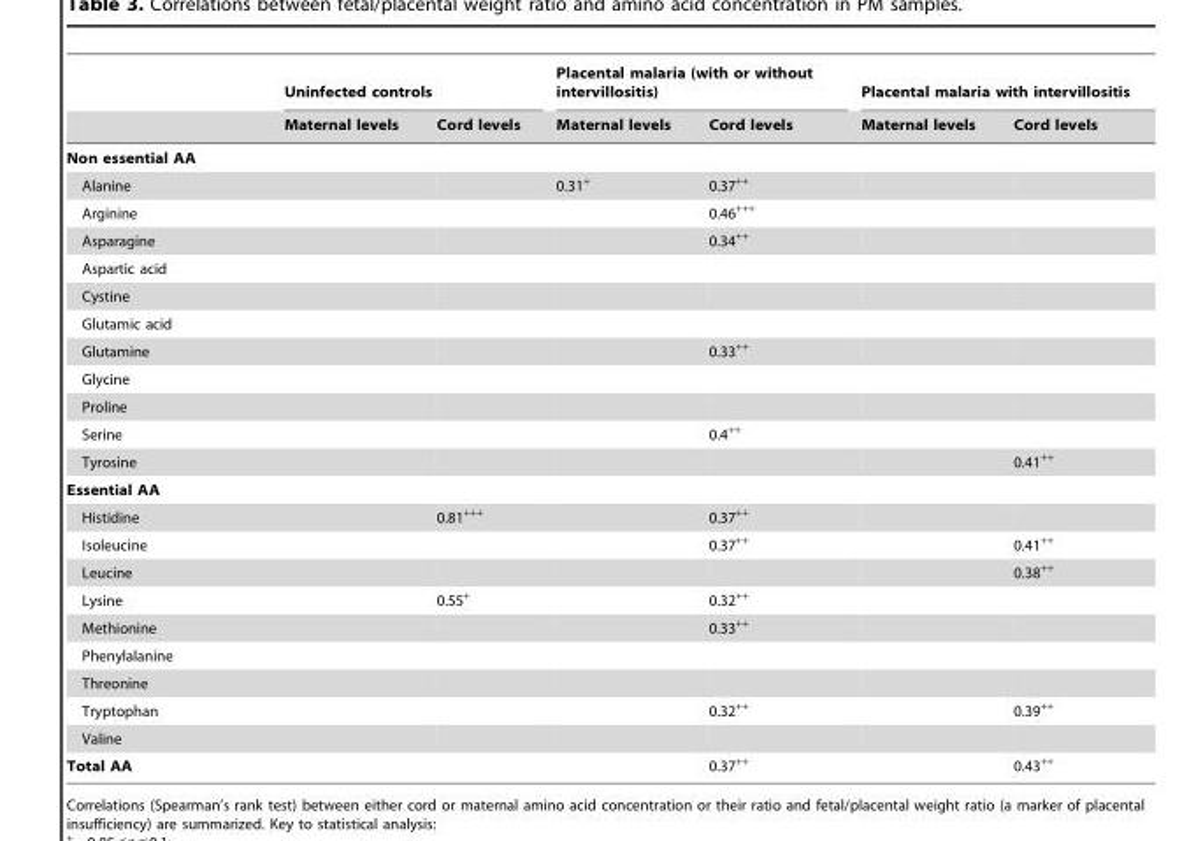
<table><thead><tr><td rowspan="2"></td><td colspan="2">Uninfected controls</td><td colspan="2">Placental malaria (with or without intervillositis)</td><td colspan="2">Placental malaria with intervillositis</td></tr><tr><td>Maternal levels</td><td>Cord levels</td><td>Maternal levels</td><td>Cord levels</td><td>Maternal levels</td><td>Cord levels</td></tr></thead><tbody><tr><td colspan="7">Non essential AA</td></tr><tr><td>Alanine</td><td></td><td></td><td>0.31+</td><td>0.37++</td><td></td><td></td></tr><tr><td>Arginine</td><td></td><td></td><td></td><td>0.46+++</td><td></td><td></td></tr><tr><td>Asparagine</td><td></td><td></td><td></td><td>0.34++</td><td></td><td></td></tr><tr><td colspan="7">Aspartic acid</td></tr><tr><td colspan="7">Cystine</td></tr><tr><td colspan="7">Glutamic acid</td></tr><tr><td>Glutamine</td><td></td><td></td><td></td><td>0.33++</td><td></td><td></td></tr><tr><td colspan="7">Glycine</td></tr><tr><td colspan="7">Proline</td></tr><tr><td>Serine</td><td></td><td></td><td></td><td>0.4++</td><td></td><td></td></tr><tr><td>Tyrosine</td><td></td><td></td><td></td><td></td><td></td><td>0.41++</td></tr><tr><td colspan="7">Essential AA</td></tr><tr><td>Histidine</td><td></td><td>0.81+++</td><td></td><td>0.37++</td><td></td><td></td></tr><tr><td>Isoleucine</td><td></td><td></td><td></td><td>0.37++</td><td></td><td>0.41++</td></tr><tr><td>Leucine</td><td></td><td></td><td></td><td></td><td></td><td>0.38++</td></tr><tr><td>Lysine</td><td></td><td>0.55+</td><td></td><td>0.32++</td><td></td><td></td></tr><tr><td>Methionine</td><td></td><td></td><td></td><td>0.33++</td><td></td><td></td></tr><tr><td colspan="7">Phenylalanine</td></tr><tr><td colspan="7">Threonine</td></tr><tr><td>Tryptophan</td><td></td><td></td><td></td><td>0.32++</td><td></td><td>0.39++</td></tr><tr><td colspan="7">Valine</td></tr><tr><td colspan="3">Total AA</td><td></td><td>0.37++</td><td></td><td>0.43++</td></tr></tbody></table>